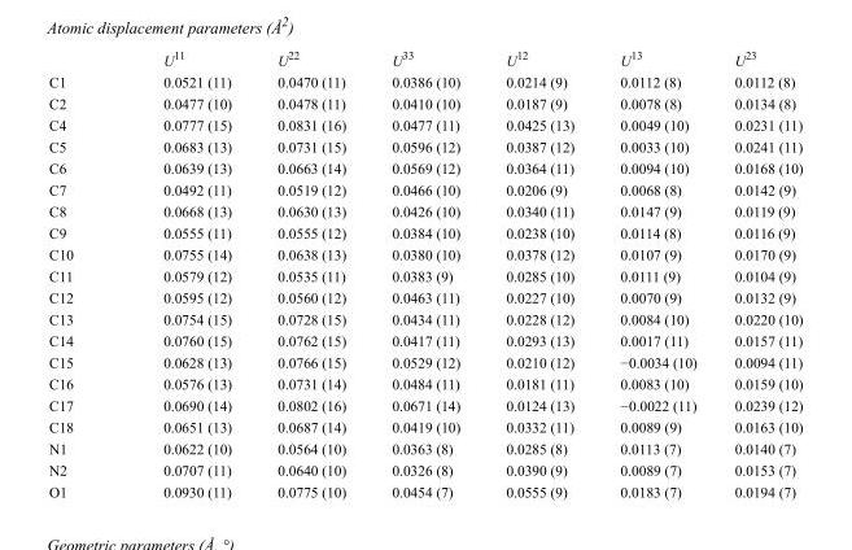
<table><thead><tr><td></td><td>U<sup>11</sup></td><td>U<sup>22</sup></td><td>U<sup>33</sup></td><td>U<sup>12</sup></td><td>U<sup>13</sup></td><td>U<sup>23</sup></td></tr></thead><tbody><tr><td>C1</td><td>0.0521 (11)</td><td>0.0470 (11)</td><td>0.0386 (10)</td><td>0.0214 (9)</td><td>0.0112 (8)</td><td>0.0112 (8)</td></tr><tr><td>C2</td><td>0.0477 (10)</td><td>0.0478 (11)</td><td>0.0410 (10)</td><td>0.0187 (9)</td><td>0.0078 (8)</td><td>0.0134 (8)</td></tr><tr><td>C4</td><td>0.0777 (15)</td><td>0.0831 (16)</td><td>0.0477 (11)</td><td>0.0425 (13)</td><td>0.0049 (10)</td><td>0.0231 (11)</td></tr><tr><td>C5</td><td>0.0683 (13)</td><td>0.0731 (15)</td><td>0.0596 (12)</td><td>0.0387 (12)</td><td>0.0033 (10)</td><td>0.0241 (11)</td></tr><tr><td>C6</td><td>0.0639 (13)</td><td>0.0663 (14)</td><td>0.0569 (12)</td><td>0.0364 (11)</td><td>0.0094 (10)</td><td>0.0168 (10)</td></tr><tr><td>C7</td><td>0.0492 (11)</td><td>0.0519 (12)</td><td>0.0466 (10)</td><td>0.0206 (9)</td><td>0.0068 (8)</td><td>0.0142 (9)</td></tr><tr><td>C8</td><td>0.0668 (13)</td><td>0.0630 (13)</td><td>0.0426 (10)</td><td>0.0340 (11)</td><td>0.0147 (9)</td><td>0.0119 (9)</td></tr><tr><td>C9</td><td>0.0555 (11)</td><td>0.0555 (12)</td><td>0.0384 (10)</td><td>0.0238 (10)</td><td>0.0114 (8)</td><td>0.0116 (9)</td></tr><tr><td>C10</td><td>0.0755 (14)</td><td>0.0638 (13)</td><td>0.0380 (10)</td><td>0.0378 (12)</td><td>0.0107 (9)</td><td>0.0170 (9)</td></tr><tr><td>C11</td><td>0.0579 (12)</td><td>0.0535 (11)</td><td>0.0383 (9)</td><td>0.0285 (10)</td><td>0.0111 (9)</td><td>0.0104 (9)</td></tr><tr><td>C12</td><td>0.0595 (12)</td><td>0.0560 (12)</td><td>0.0463 (11)</td><td>0.0227 (10)</td><td>0.0070 (9)</td><td>0.0132 (9)</td></tr><tr><td>C13</td><td>0.0754 (15)</td><td>0.0728 (15)</td><td>0.0434 (11)</td><td>0.0228 (12)</td><td>0.0084 (10)</td><td>0.0220 (10)</td></tr><tr><td>C14</td><td>0.0760 (15)</td><td>0.0762 (15)</td><td>0.0417 (11)</td><td>0.0293 (13)</td><td>0.0017 (11)</td><td>0.0157 (11)</td></tr><tr><td>C15</td><td>0.0628 (13)</td><td>0.0766 (15)</td><td>0.0529 (12)</td><td>0.0210 (12)</td><td>−0.0034 (10)</td><td>0.0094 (11)</td></tr><tr><td>C16</td><td>0.0576 (13)</td><td>0.0731 (14)</td><td>0.0484 (11)</td><td>0.0181 (11)</td><td>0.0083 (10)</td><td>0.0159 (10)</td></tr><tr><td>C17</td><td>0.0690 (14)</td><td>0.0802 (16)</td><td>0.0671 (14)</td><td>0.0124 (13)</td><td>−0.0022 (11)</td><td>0.0239 (12)</td></tr><tr><td>C18</td><td>0.0651 (13)</td><td>0.0687 (14)</td><td>0.0419 (10)</td><td>0.0332 (11)</td><td>0.0089 (9)</td><td>0.0163 (10)</td></tr><tr><td>N1</td><td>0.0622 (10)</td><td>0.0564 (10)</td><td>0.0363 (8)</td><td>0.0285 (8)</td><td>0.0113 (7)</td><td>0.0140 (7)</td></tr><tr><td>N2</td><td>0.0707 (11)</td><td>0.0640 (10)</td><td>0.0326 (8)</td><td>0.0390 (9)</td><td>0.0089 (7)</td><td>0.0153 (7)</td></tr><tr><td>O1</td><td>0.0930 (11)</td><td>0.0775 (10)</td><td>0.0454 (7)</td><td>0.0555 (9)</td><td>0.0183 (7)</td><td>0.0194 (7)</td></tr></tbody></table>